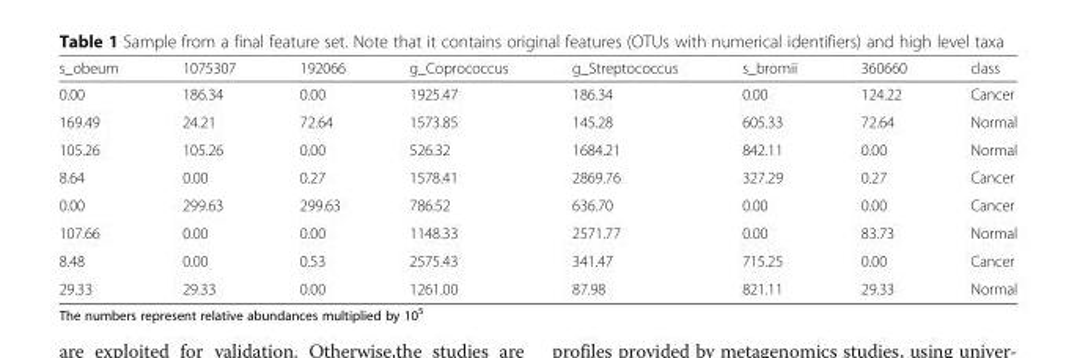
<table><thead><tr><td>s_obeum</td><td>1075307</td><td>192066</td><td>g_Coprococcus</td><td>g_Streptococcus</td><td>s_bromii</td><td>360660</td><td>class</td></tr></thead><tbody><tr><td>0.00</td><td>186.34</td><td>0.00</td><td>1925.47</td><td>186.34</td><td>0.00</td><td>124.22</td><td>Cancer</td></tr><tr><td>169.49</td><td>24.21</td><td>72.64</td><td>1573.85</td><td>145.28</td><td>605.33</td><td>72.64</td><td>Normal</td></tr><tr><td>105.26</td><td>105.26</td><td>0.00</td><td>526.32</td><td>1684.21</td><td>842.11</td><td>0.00</td><td>Normal</td></tr><tr><td>8.64</td><td>0.00</td><td>0.27</td><td>1578.41</td><td>2869.76</td><td>327.29</td><td>0.27</td><td>Cancer</td></tr><tr><td>0.00</td><td>299.63</td><td>299.63</td><td>786.52</td><td>636.70</td><td>0.00</td><td>0.00</td><td>Cancer</td></tr><tr><td>107.66</td><td>0.00</td><td>0.00</td><td>1148.33</td><td>2571.77</td><td>0.00</td><td>83.73</td><td>Normal</td></tr><tr><td>8.48</td><td>0.00</td><td>0.53</td><td>2575.43</td><td>341.47</td><td>715.25</td><td>0.00</td><td>Cancer</td></tr><tr><td>29.33</td><td>29.33</td><td>0.00</td><td>1261.00</td><td>87.98</td><td>821.11</td><td>29.33</td><td>Normal</td></tr></tbody></table>